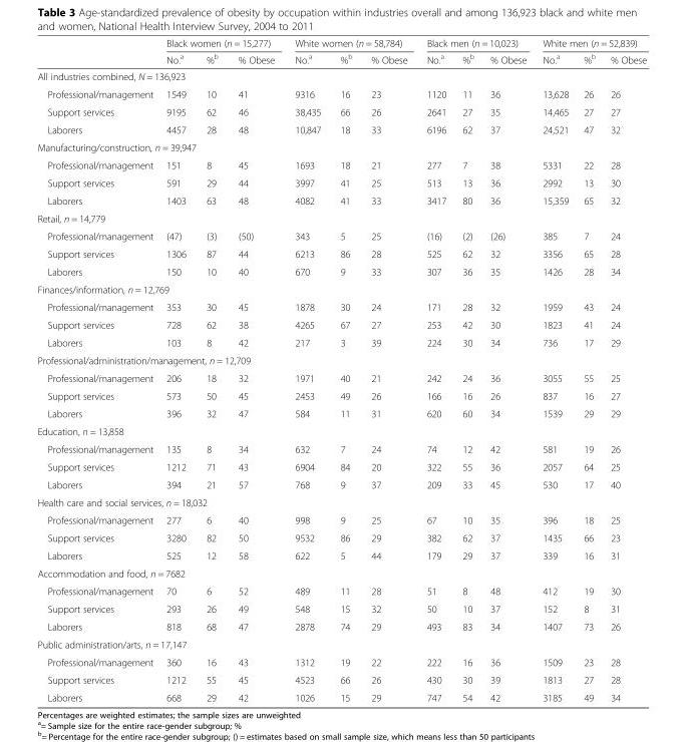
<table><thead><tr><td rowspan="2"></td><td colspan="3">Black women (n = 15,277)</td><td colspan="3">White women (n = 58,784)</td><td colspan="3">Black men (n = 10,023)</td><td colspan="3">White men (n = 52,839)</td></tr><tr><td>No.<sup>a</sup></td><td>%<sup>b</sup></td><td>% Obese</td><td>No.<sup>a</sup></td><td>%<sup>b</sup></td><td>% Obese</td><td>No.<sup>a</sup></td><td>%<sup>b</sup></td><td>% Obese</td><td>No.<sup>a</sup></td><td>%<sup>b</sup></td><td>% Obese</td></tr></thead><tbody><tr><td colspan="13">All industries combined, N = 136,923</td></tr><tr><td>Professional/management</td><td>1549</td><td>10</td><td>41</td><td>9316</td><td>16</td><td>23</td><td>1120</td><td>11</td><td>36</td><td>13,628</td><td>26</td><td>26</td></tr><tr><td>Support services</td><td>9195</td><td>62</td><td>46</td><td>38,435</td><td>66</td><td>26</td><td>2641</td><td>27</td><td>35</td><td>14,465</td><td>27</td><td>27</td></tr><tr><td>Laborers</td><td>4457</td><td>28</td><td>48</td><td>10,847</td><td>18</td><td>33</td><td>6196</td><td>62</td><td>37</td><td>24,521</td><td>47</td><td>32</td></tr><tr><td colspan="13">Manufacturing/construction, n = 39,947</td></tr><tr><td>Professional/management</td><td>151</td><td>8</td><td>45</td><td>1693</td><td>18</td><td>21</td><td>277</td><td>7</td><td>38</td><td>5331</td><td>22</td><td>28</td></tr><tr><td>Support services</td><td>591</td><td>29</td><td>44</td><td>3997</td><td>41</td><td>25</td><td>513</td><td>13</td><td>36</td><td>2992</td><td>13</td><td>30</td></tr><tr><td>Laborers</td><td>1403</td><td>63</td><td>48</td><td>4082</td><td>41</td><td>33</td><td>3417</td><td>80</td><td>36</td><td>15,359</td><td>65</td><td>32</td></tr><tr><td colspan="13">Retail, n = 14,779</td></tr><tr><td>Professional/management</td><td>(47)</td><td>(3)</td><td>(50)</td><td>343</td><td>5</td><td>25</td><td>(16)</td><td>(2)</td><td>(26)</td><td>385</td><td>7</td><td>24</td></tr><tr><td>Support services</td><td>1306</td><td>87</td><td>44</td><td>6213</td><td>86</td><td>28</td><td>525</td><td>62</td><td>32</td><td>3356</td><td>65</td><td>28</td></tr><tr><td>Laborers</td><td>150</td><td>10</td><td>40</td><td>670</td><td>9</td><td>33</td><td>307</td><td>36</td><td>35</td><td>1426</td><td>28</td><td>34</td></tr><tr><td colspan="13">Finances/information, n = 12,769</td></tr><tr><td>Professional/management</td><td>353</td><td>30</td><td>45</td><td>1878</td><td>30</td><td>24</td><td>171</td><td>28</td><td>32</td><td>1959</td><td>43</td><td>24</td></tr><tr><td>Support services</td><td>728</td><td>62</td><td>38</td><td>4265</td><td>67</td><td>27</td><td>253</td><td>42</td><td>30</td><td>1823</td><td>41</td><td>24</td></tr><tr><td>Laborers</td><td>103</td><td>8</td><td>42</td><td>217</td><td>3</td><td>39</td><td>224</td><td>30</td><td>34</td><td>736</td><td>17</td><td>29</td></tr><tr><td colspan="13">Professional/administration/management, n = 12,709</td></tr><tr><td>Professional/management</td><td>206</td><td>18</td><td>32</td><td>1971</td><td>40</td><td>21</td><td>242</td><td>24</td><td>36</td><td>3055</td><td>55</td><td>25</td></tr><tr><td>Support services</td><td>573</td><td>50</td><td>45</td><td>2453</td><td>49</td><td>26</td><td>166</td><td>16</td><td>26</td><td>837</td><td>16</td><td>27</td></tr><tr><td>Laborers</td><td>396</td><td>32</td><td>47</td><td>584</td><td>11</td><td>31</td><td>620</td><td>60</td><td>34</td><td>1539</td><td>29</td><td>29</td></tr><tr><td colspan="13">Education, n = 13,858</td></tr><tr><td>Professional/management</td><td>135</td><td>8</td><td>34</td><td>632</td><td>7</td><td>24</td><td>74</td><td>12</td><td>42</td><td>581</td><td>19</td><td>26</td></tr><tr><td>Support services</td><td>1212</td><td>71</td><td>43</td><td>6904</td><td>84</td><td>20</td><td>322</td><td>55</td><td>36</td><td>2057</td><td>64</td><td>25</td></tr><tr><td>Laborers</td><td>394</td><td>21</td><td>57</td><td>768</td><td>9</td><td>37</td><td>209</td><td>33</td><td>45</td><td>530</td><td>17</td><td>40</td></tr><tr><td colspan="13">Health care and social services, n = 18,032</td></tr><tr><td>Professional/management</td><td>277</td><td>6</td><td>40</td><td>998</td><td>9</td><td>25</td><td>67</td><td>10</td><td>35</td><td>396</td><td>18</td><td>25</td></tr><tr><td>Support services</td><td>3280</td><td>82</td><td>50</td><td>9532</td><td>86</td><td>29</td><td>382</td><td>62</td><td>37</td><td>1435</td><td>66</td><td>23</td></tr><tr><td>Laborers</td><td>525</td><td>12</td><td>58</td><td>622</td><td>5</td><td>44</td><td>179</td><td>29</td><td>37</td><td>339</td><td>16</td><td>31</td></tr><tr><td colspan="13">Accommodation and food, n = 7682</td></tr><tr><td>Professional/management</td><td>70</td><td>6</td><td>52</td><td>489</td><td>11</td><td>28</td><td>51</td><td>8</td><td>48</td><td>412</td><td>19</td><td>30</td></tr><tr><td>Support services</td><td>293</td><td>26</td><td>49</td><td>548</td><td>15</td><td>32</td><td>50</td><td>10</td><td>37</td><td>152</td><td>8</td><td>31</td></tr><tr><td>Laborers</td><td>818</td><td>68</td><td>47</td><td>2878</td><td>74</td><td>29</td><td>493</td><td>83</td><td>34</td><td>1407</td><td>73</td><td>26</td></tr><tr><td colspan="13">Public administration/arts, n = 17,147</td></tr><tr><td>Professional/management</td><td>360</td><td>16</td><td>43</td><td>1312</td><td>19</td><td>22</td><td>222</td><td>16</td><td>36</td><td>1509</td><td>23</td><td>28</td></tr><tr><td>Support services</td><td>1212</td><td>55</td><td>45</td><td>4523</td><td>66</td><td>26</td><td>430</td><td>30</td><td>39</td><td>1813</td><td>27</td><td>28</td></tr><tr><td>Laborers</td><td>668</td><td>29</td><td>42</td><td>1026</td><td>15</td><td>29</td><td>747</td><td>54</td><td>42</td><td>3185</td><td>49</td><td>34</td></tr></tbody></table>